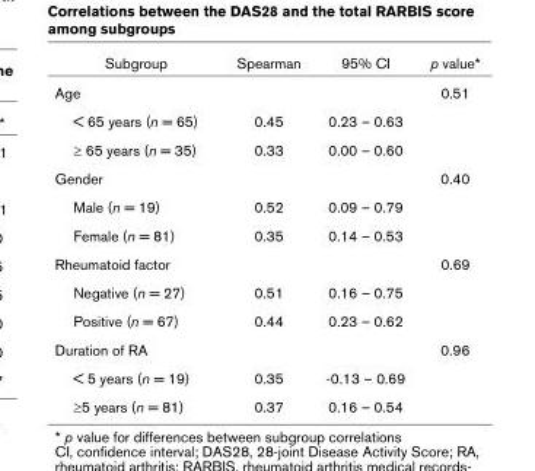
<table><thead><tr><td>Subgroup</td><td>Spearman</td><td>95% CI</td><td>p value*</td></tr></thead><tbody><tr><td>Age</td><td></td><td></td><td>0.51</td></tr><tr><td>&lt; 65 years (n = 65)</td><td>0.45</td><td>0.23 – 0.63</td><td></td></tr><tr><td>≥ 65 years (n = 35)</td><td>0.33</td><td>0.00 – 0.60</td><td></td></tr><tr><td>Gender</td><td></td><td></td><td>0.40</td></tr><tr><td>Male (n = 19)</td><td>0.52</td><td>0.09 – 0.79</td><td></td></tr><tr><td>Female (n = 81)</td><td>0.35</td><td>0.14 – 0.53</td><td></td></tr><tr><td>Rheumatoid factor</td><td></td><td></td><td>0.69</td></tr><tr><td>Negative (n = 27)</td><td>0.51</td><td>0.16 – 0.75</td><td></td></tr><tr><td>Positive (n = 67)</td><td>0.44</td><td>0.23 – 0.62</td><td></td></tr><tr><td>Duration of RA</td><td></td><td></td><td>0.96</td></tr><tr><td>&lt; 5 years (n = 19)</td><td>0.35</td><td>-0.13 – 0.69</td><td></td></tr><tr><td>≥5 years (n = 81)</td><td>0.37</td><td>0.16 – 0.54</td><td></td></tr></tbody></table>